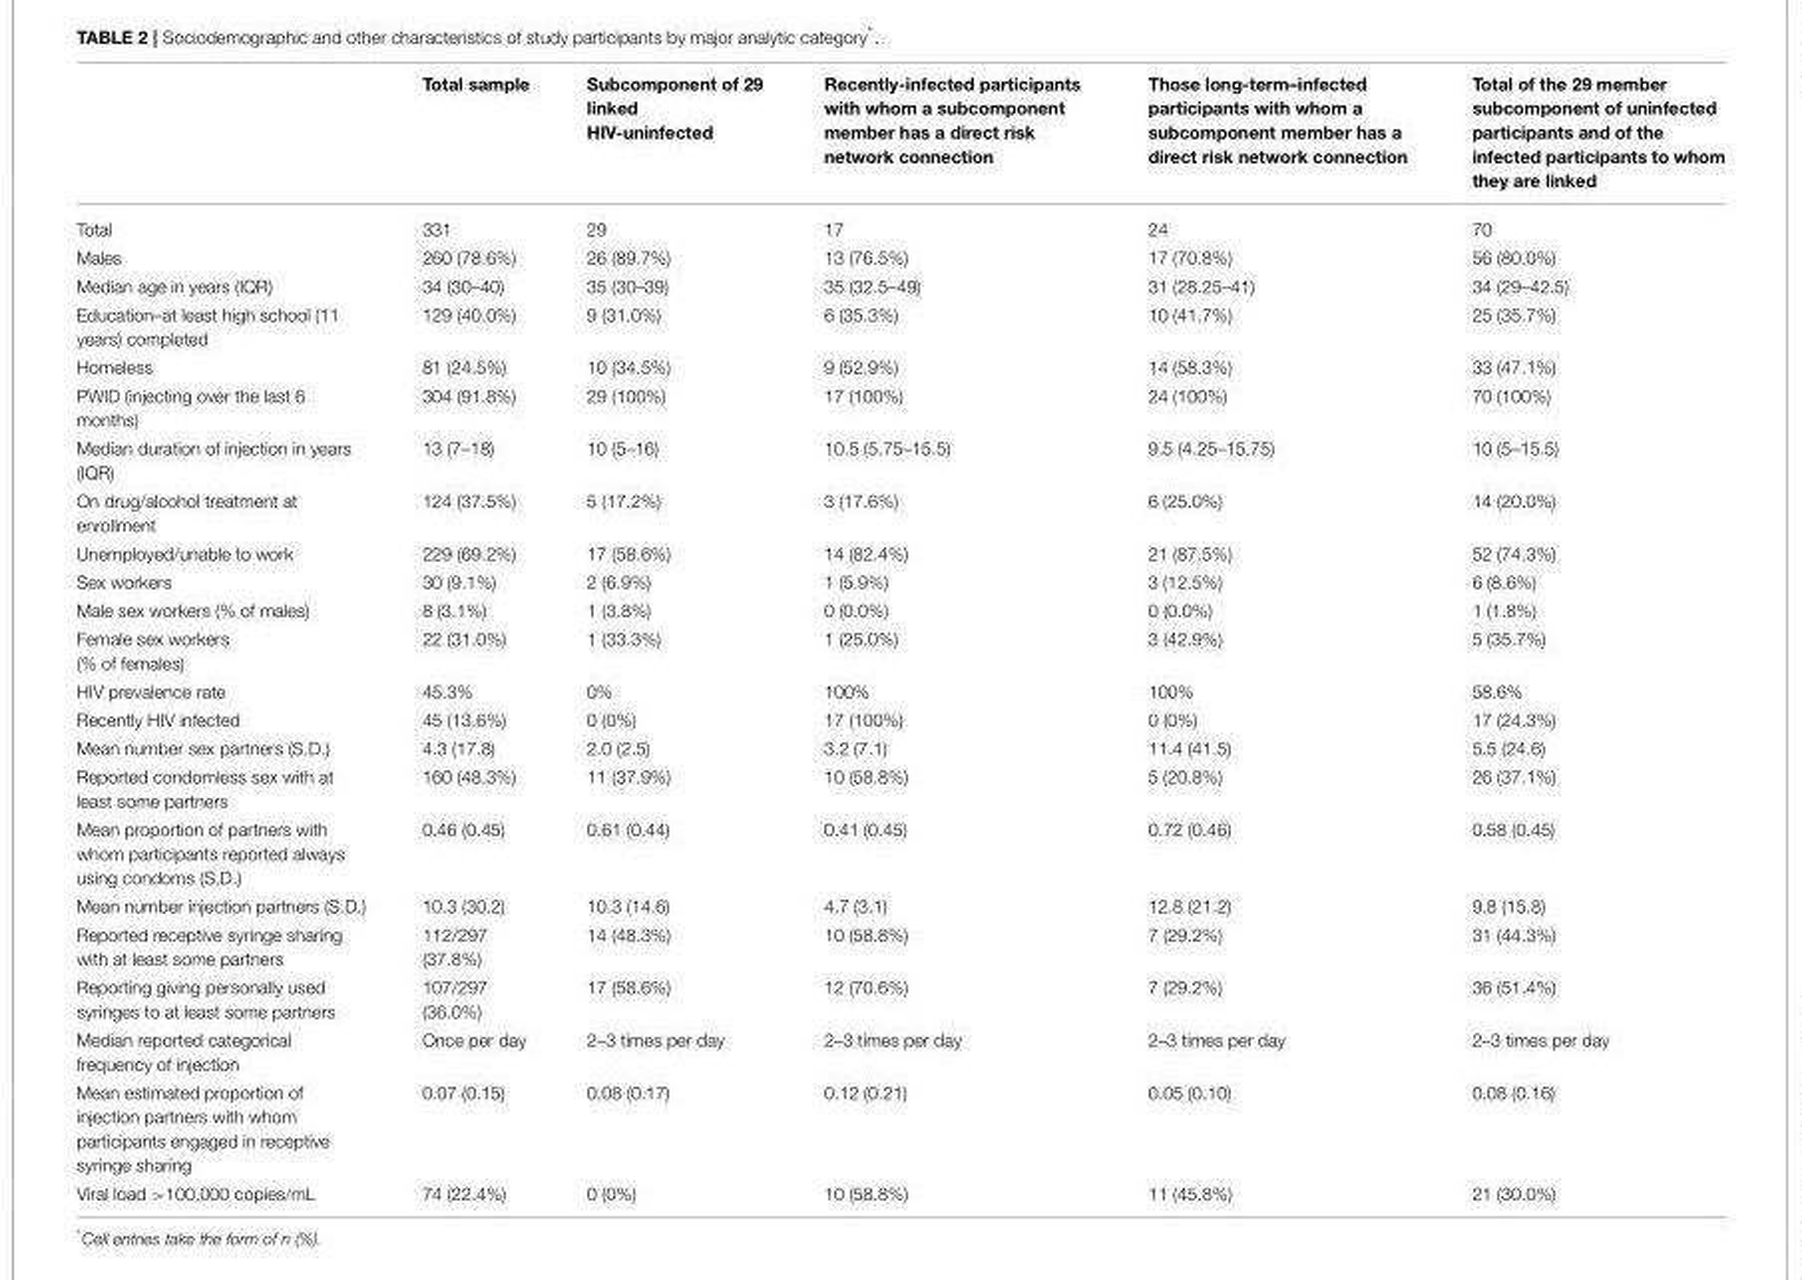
<table><thead><tr><td></td><td>Total sample</td><td>Subcomponent of 29 linked HIV-uninfected</td><td>Recently-infected participants with whom a subcomponent member has a direct risk network connection</td><td>Those long-term–infected participants with whom a subcomponent member has a direct risk network connection</td><td>Total of the 29 member subcomponent of uninfected participants and of the infected participants to whom they are linked</td></tr></thead><tbody><tr><td>Total</td><td>331</td><td>29</td><td>17</td><td>24</td><td>70</td></tr><tr><td>Males</td><td>260 (78.6%)</td><td>26 (89.7%)</td><td>13 (76.5%)</td><td>17 (70.8%)</td><td>56 (80.0%)</td></tr><tr><td>Median age in years (IQR)</td><td>34 (30–40)</td><td>35 (30–39)</td><td>35 (32.5–49)</td><td>31 (28.25–41)</td><td>34 (29–42.5)</td></tr><tr><td>Education–at least high school (11 years) completed</td><td>129 (40.0%)</td><td>9 (31.0%)</td><td>6 (35.3%)</td><td>10 (41.7%)</td><td>25 (35.7%)</td></tr><tr><td>Homeless</td><td>81 (24.5%)</td><td>10 (34.5%)</td><td>9 (52.9%)</td><td>14 (58.3%)</td><td>33 (47.1%)</td></tr><tr><td>PWID (injecting over the last 6 months)</td><td>304 (91.8%)</td><td>29 (100%)</td><td>17 (100%)</td><td>24 (100%)</td><td>70 (100%)</td></tr><tr><td>Median duration of injection in years (IQR)</td><td>13 (7–18)</td><td>10 (5–16)</td><td>10.5 (5.75–15.5)</td><td>9.5 (4.25–15.75)</td><td>10 (5–15.5)</td></tr><tr><td>On drug/alcohol treatment at enrollment</td><td>124 (37.5%)</td><td>5 (17.2%)</td><td>3 (17.6%)</td><td>6 (25.0%)</td><td>14 (20.0%)</td></tr><tr><td>Unemployed/unable to work</td><td>229 (69.2%)</td><td>17 (58.6%)</td><td>14 (82.4%)</td><td>21 (87.5%)</td><td>52 (74.3%)</td></tr><tr><td>Sex workers</td><td>30 (9.1%)</td><td>2 (6.9%)</td><td>1 (5.9%)</td><td>3 (12.5%)</td><td>6 (8.6%)</td></tr><tr><td>Male sex workers (% of males)</td><td>8 (3.1%)</td><td>1 (3.8%)</td><td>0 (0.0%)</td><td>0 (0.0%)</td><td>1 (1.8%)</td></tr><tr><td>Female sex workers (% of females)</td><td>22 (31.0%)</td><td>1 (33.3%)</td><td>1 (25.0%)</td><td>3 (42.9%)</td><td>5 (35.7%)</td></tr><tr><td>HIV prevalence rate</td><td>45.3%</td><td>0%</td><td>100%</td><td>100%</td><td>58.6%</td></tr><tr><td>Recently HIV infected</td><td>45 (13.6%)</td><td>0 (0%)</td><td>17 (100%)</td><td>0 (0%)</td><td>17 (24.3%)</td></tr><tr><td>Mean number sex partners (S.D.)</td><td>4.3 (17.8)</td><td>2.0 (2.5)</td><td>3.2 (7.1)</td><td>11.4 (41.5)</td><td>5.5 (24.6)</td></tr><tr><td>Reported condomless sex with at least some partners</td><td>160 (48.3%)</td><td>11 (37.9%)</td><td>10 (58.8%)</td><td>5 (20.8%)</td><td>26 (37.1%)</td></tr><tr><td>Mean proportion of partners with whom participants reported always using condoms (S.D.)</td><td>0.46 (0.45)</td><td>0.61 (0.44)</td><td>0.41 (0.45)</td><td>0.72 (0.46)</td><td>0.58 (0.45)</td></tr><tr><td>Mean number injection partners (S.D.)</td><td>10.3 (30.2)</td><td>10.3 (14.6)</td><td>4.7 (3.1)</td><td>12.8 (21.2)</td><td>9.8 (15.8)</td></tr><tr><td>Reported receptive syringe sharing with at least some partners</td><td>112/297 (37.8%)</td><td>14 (48.3%)</td><td>10 (58.8%)</td><td>7 (29.2%)</td><td>31 (44.3%)</td></tr><tr><td>Reporting giving personally used syringes to at least some partners</td><td>107/297 (36.0%)</td><td>17 (58.6%)</td><td>12 (70.6%)</td><td>7 (29.2%)</td><td>36 (51.4%)</td></tr><tr><td>Median reported categorical frequency of injection</td><td>Once per day</td><td>2–3 times per day</td><td>2–3 times per day</td><td>2–3 times per day</td><td>2–3 times per day</td></tr><tr><td>Mean estimated proportion of injection partners with whom participants engaged in receptive syringe sharing</td><td>0.07 (0.15)</td><td>0.08 (0.17)</td><td>0.12 (0.21)</td><td>0.05 (0.10)</td><td>0.08 (0.16)</td></tr><tr><td>Viral load &gt;100,000 copies/mL</td><td>74 (22.4%)</td><td>0 (0%)</td><td>10 (58.8%)</td><td>11 (45.8%)</td><td>21 (30.0%)</td></tr></tbody></table>